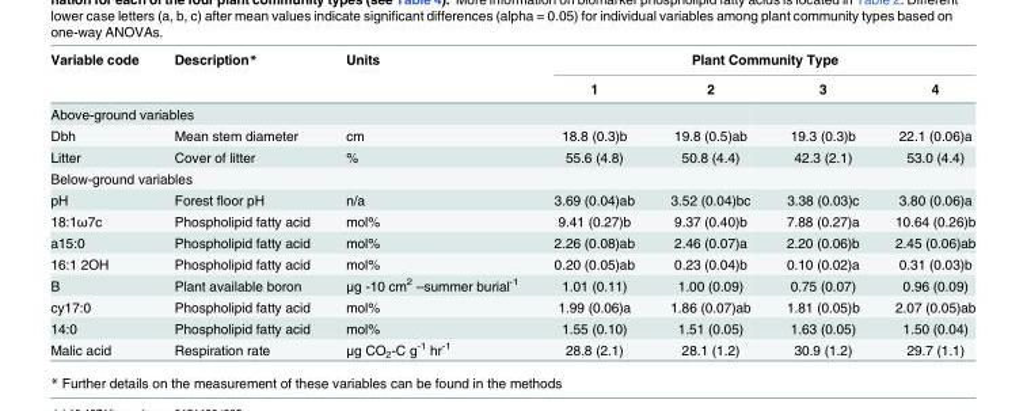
<table><thead><tr><td rowspan="2">Variable code</td><td rowspan="2">Description*</td><td rowspan="2">Units</td><td colspan="4">Plant Community Type</td></tr><tr><td>1</td><td>2</td><td>3</td><td>4</td></tr></thead><tbody><tr><td colspan="7">Above-ground variables</td></tr><tr><td>Dbh</td><td>Mean stem diameter</td><td>cm</td><td>18.8 (0.3)b</td><td>19.8 (0.5)ab</td><td>19.3 (0.3)b</td><td>22.1 (0.06)a</td></tr><tr><td>Litter</td><td>Cover of litter</td><td>%</td><td>55.6 (4.8)</td><td>50.8 (4.4)</td><td>42.3 (2.1)</td><td>53.0 (4.4)</td></tr><tr><td colspan="7">Below-ground variables</td></tr><tr><td>pH</td><td>Forest floor pH</td><td>n/a</td><td>3.69 (0.04)ab</td><td>3.52 (0.04)bc</td><td>3.38 (0.03)c</td><td>3.80 (0.06)a</td></tr><tr><td>18:1ω7c</td><td>Phospholipid fatty acid</td><td>mol%</td><td>9.41 (0.27)b</td><td>9.37 (0.40)b</td><td>7.88 (0.27)a</td><td>10.64 (0.26)b</td></tr><tr><td>a15:0</td><td>Phospholipid fatty acid</td><td>mol%</td><td>2.26 (0.08)ab</td><td>2.46 (0.07)a</td><td>2.20 (0.06)b</td><td>2.45 (0.06)ab</td></tr><tr><td>16:1 2OH</td><td>Phospholipid fatty acid</td><td>mol%</td><td>0.20 (0.05)ab</td><td>0.23 (0.04)b</td><td>0.10 (0.02)a</td><td>0.31 (0.03)b</td></tr><tr><td>B</td><td>Plant available boron</td><td>μg -10 cm<sup>2</sup> –summer burial<sup>-1</sup></td><td>1.01 (0.11)</td><td>1.00 (0.09)</td><td>0.75 (0.07)</td><td>0.96 (0.09)</td></tr><tr><td>cy17:0</td><td>Phospholipid fatty acid</td><td>mol%</td><td>1.99 (0.06)a</td><td>1.86 (0.07)ab</td><td>1.81 (0.05)b</td><td>2.07 (0.05)ab</td></tr><tr><td>14:0</td><td>Phospholipid fatty acid</td><td>mol%</td><td>1.55 (0.10)</td><td>1.51 (0.05)</td><td>1.63 (0.05)</td><td>1.50 (0.04)</td></tr><tr><td>Malic acid</td><td>Respiration rate</td><td>μg CO<sub>2</sub>-C g<sup>-1</sup> hr<sup>-1</sup></td><td>28.8 (2.1)</td><td>28.1 (1.2)</td><td>30.9 (1.2)</td><td>29.7 (1.1)</td></tr></tbody></table>